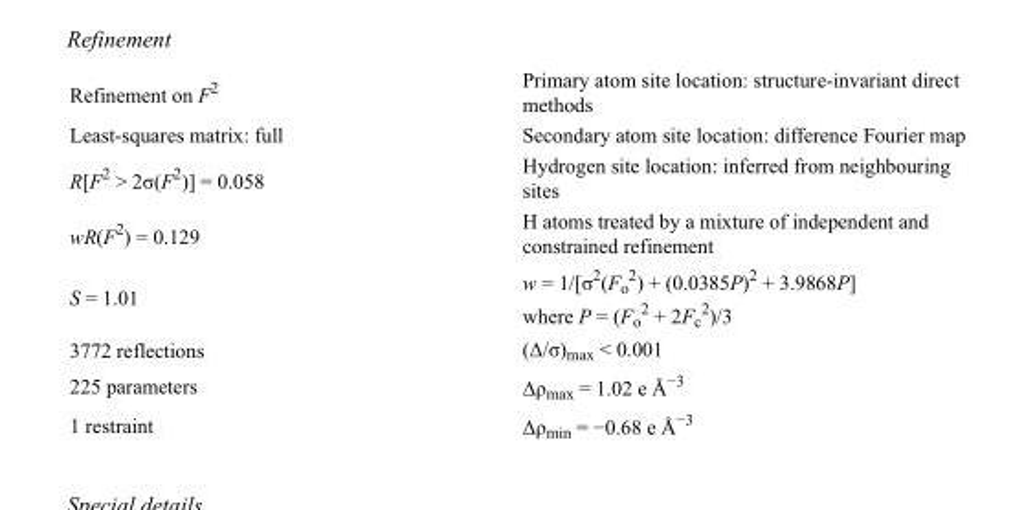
<table><tbody><tr><td>Refinement on F<sup>2</sup></td><td>Primary atom site location: structure-invariant direct methods</td></tr><tr><td>Least-squares matrix: full</td><td>Secondary atom site location: difference Fourier map</td></tr><tr><td>R[F<sup>2</sup> &gt; 2σ(F<sup>2</sup>)] = 0.058</td><td>Hydrogen site location: inferred from neighbouring sites</td></tr><tr><td>wR(F<sup>2</sup>) = 0.129</td><td>H atoms treated by a mixture of independent and constrained refinement</td></tr><tr><td>S = 1.01</td><td>w = 1/[σ<sup>2</sup>(F<sub>o</sub> <sup>2</sup>) + (0.0385P)<sup>2</sup> + 3.9868P] where P = (F<sub>o</sub> <sup>2</sup> + 2F<sub>c</sub> <sup>2</sup>)/3</td></tr><tr><td>3772 reflections</td><td>(Δ/σ)<sub>max</sub> &lt; 0.001</td></tr><tr><td>225 parameters</td><td>Δρ<sub>max</sub> = 1.02 e Å<sup>−3</sup></td></tr><tr><td>1 restraint</td><td>Δρ<sub>min</sub> = −0.68 e Å<sup>−3</sup></td></tr></tbody></table>